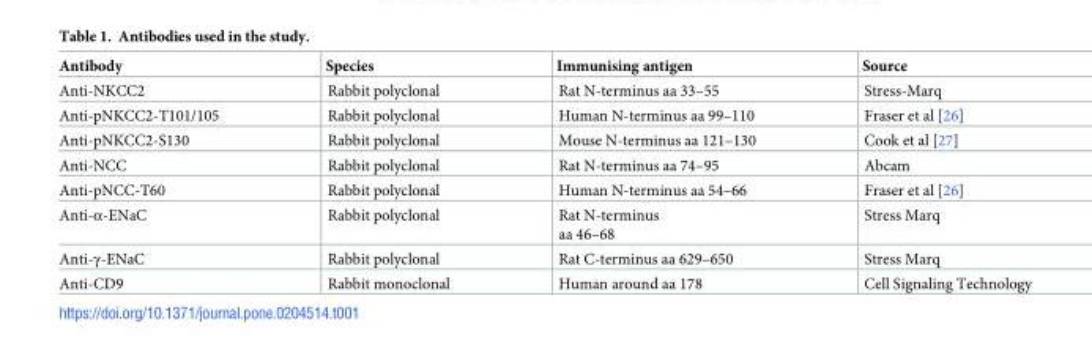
<table><thead><tr><td>Antibody</td><td>Species</td><td>Immunising antigen</td><td>Source</td></tr></thead><tbody><tr><td>Anti-NKCC2</td><td>Rabbit polyclonal</td><td>Rat N-terminus aa 33–55</td><td>Stress-Marq</td></tr><tr><td>Anti-pNKCC2-T101/105</td><td>Rabbit polyclonal</td><td>Human N-terminus aa 99–110</td><td>Fraser et al [26]</td></tr><tr><td>Anti-pNKCC2-S130</td><td>Rabbit polyclonal</td><td>Mouse N-terminus aa 121–130</td><td>Cook et al [27]</td></tr><tr><td>Anti-NCC</td><td>Rabbit polyclonal</td><td>Rat N-terminus aa 74–95</td><td>Abcam</td></tr><tr><td>Anti-pNCC-T60</td><td>Rabbit polyclonal</td><td>Human N-terminus aa 54–66</td><td>Fraser et al [26]</td></tr><tr><td>Anti-α-ENaC</td><td>Rabbit polyclonal</td><td>Rat N-terminus aa 46–68</td><td>Stress Marq</td></tr><tr><td>Anti-γ-ENaC</td><td>Rabbit polyclonal</td><td>Rat C-terminus aa 629–650</td><td>Stress Marq</td></tr><tr><td>Anti-CD9</td><td>Rabbit monoclonal</td><td>Human around aa 178</td><td>Cell Signaling Technology</td></tr></tbody></table>